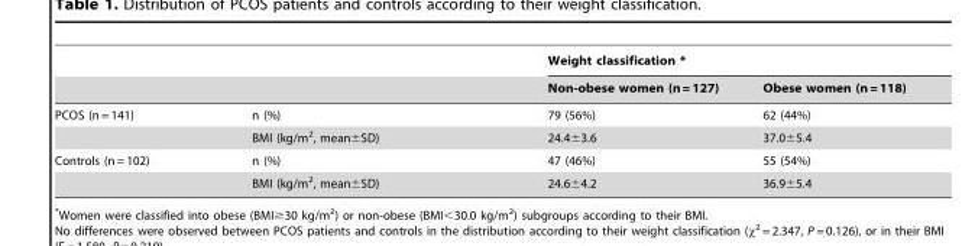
<table><thead><tr><td rowspan="2"></td><td rowspan="2"></td><td colspan="2">Weight classification *</td></tr><tr><td>Non-obese women (n = 127)</td><td>Obese women (n = 118)</td></tr></thead><tbody><tr><td rowspan="2">PCOS (n = 141)</td><td>n (%)</td><td>79 (56%)</td><td>62 (44%)</td></tr><tr><td>BMI (kg/m<sup>2</sup>, mean±SD)</td><td>24.4±3.6</td><td>37.0±5.4</td></tr><tr><td rowspan="2">Controls (n = 102)</td><td>n (%)</td><td>47 (46%)</td><td>55 (54%)</td></tr><tr><td>BMI (kg/m<sup>2</sup>, mean±SD)</td><td>24.6±4.2</td><td>36.9±5.4</td></tr></tbody></table>